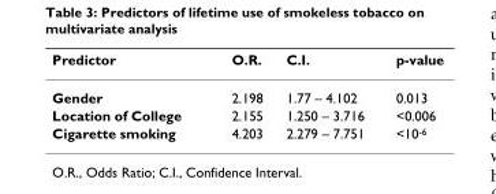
<table><thead><tr><td>Predictor</td><td>O.R.</td><td>C.I.</td><td>p-value</td></tr></thead><tbody><tr><td>Gender</td><td>2.198</td><td>1.77 – 4.102</td><td>0.013</td></tr><tr><td>Location of College</td><td>2.155</td><td>1.250 – 3.716</td><td>&lt;0.006</td></tr><tr><td>Cigarette smoking</td><td>4.203</td><td>2.279 – 7.751</td><td>&lt;10<sup>-6</sup></td></tr></tbody></table>